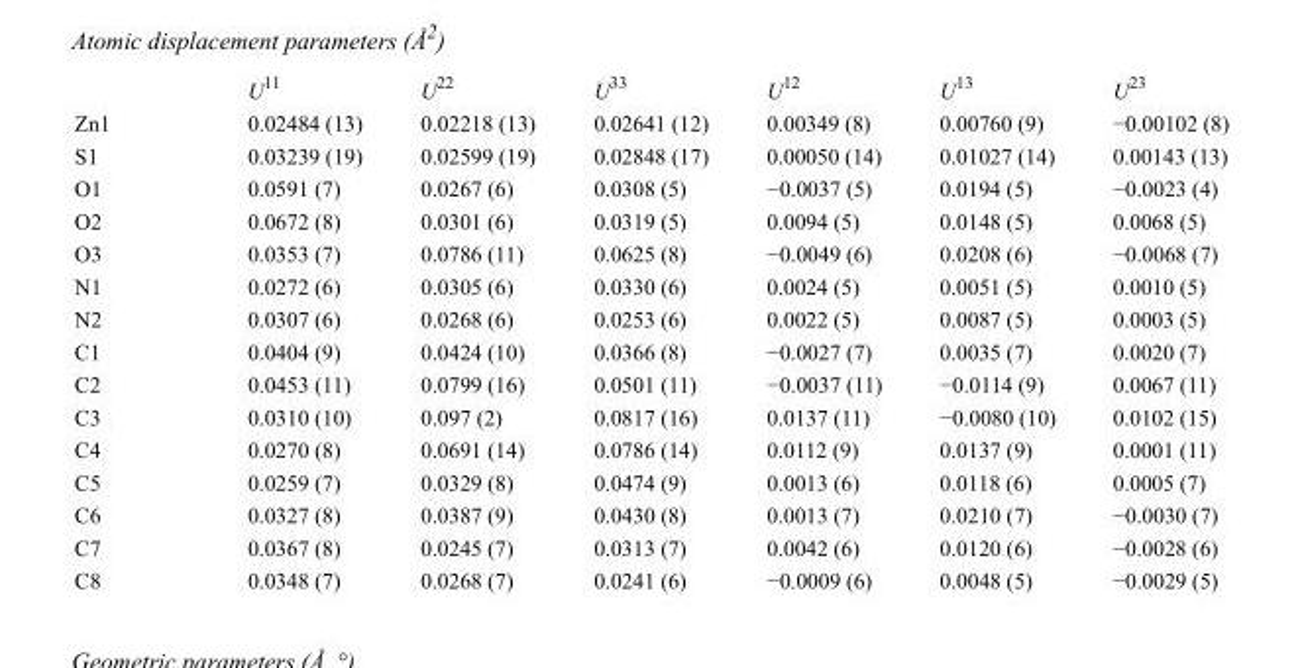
<table><thead><tr><td></td><td>U<sup>11</sup></td><td>U<sup>22</sup></td><td>U<sup>33</sup></td><td>U<sup>12</sup></td><td>U<sup>13</sup></td><td>U<sup>23</sup></td></tr></thead><tbody><tr><td>Zn1</td><td>0.02484 (13)</td><td>0.02218 (13)</td><td>0.02641 (12)</td><td>0.00349 (8)</td><td>0.00760 (9)</td><td>−0.00102 (8)</td></tr><tr><td>S1</td><td>0.03239 (19)</td><td>0.02599 (19)</td><td>0.02848 (17)</td><td>0.00050 (14)</td><td>0.01027 (14)</td><td>0.00143 (13)</td></tr><tr><td>O1</td><td>0.0591 (7)</td><td>0.0267 (6)</td><td>0.0308 (5)</td><td>−0.0037 (5)</td><td>0.0194 (5)</td><td>−0.0023 (4)</td></tr><tr><td>O2</td><td>0.0672 (8)</td><td>0.0301 (6)</td><td>0.0319 (5)</td><td>0.0094 (5)</td><td>0.0148 (5)</td><td>0.0068 (5)</td></tr><tr><td>O3</td><td>0.0353 (7)</td><td>0.0786 (11)</td><td>0.0625 (8)</td><td>−0.0049 (6)</td><td>0.0208 (6)</td><td>−0.0068 (7)</td></tr><tr><td>N1</td><td>0.0272 (6)</td><td>0.0305 (6)</td><td>0.0330 (6)</td><td>0.0024 (5)</td><td>0.0051 (5)</td><td>0.0010 (5)</td></tr><tr><td>N2</td><td>0.0307 (6)</td><td>0.0268 (6)</td><td>0.0253 (6)</td><td>0.0022 (5)</td><td>0.0087 (5)</td><td>0.0003 (5)</td></tr><tr><td>C1</td><td>0.0404 (9)</td><td>0.0424 (10)</td><td>0.0366 (8)</td><td>−0.0027 (7)</td><td>0.0035 (7)</td><td>0.0020 (7)</td></tr><tr><td>C2</td><td>0.0453 (11)</td><td>0.0799 (16)</td><td>0.0501 (11)</td><td>−0.0037 (11)</td><td>−0.0114 (9)</td><td>0.0067 (11)</td></tr><tr><td>C3</td><td>0.0310 (10)</td><td>0.097 (2)</td><td>0.0817 (16)</td><td>0.0137 (11)</td><td>−0.0080 (10)</td><td>0.0102 (15)</td></tr><tr><td>C4</td><td>0.0270 (8)</td><td>0.0691 (14)</td><td>0.0786 (14)</td><td>0.0112 (9)</td><td>0.0137 (9)</td><td>0.0001 (11)</td></tr><tr><td>C5</td><td>0.0259 (7)</td><td>0.0329 (8)</td><td>0.0474 (9)</td><td>0.0013 (6)</td><td>0.0118 (6)</td><td>0.0005 (7)</td></tr><tr><td>C6</td><td>0.0327 (8)</td><td>0.0387 (9)</td><td>0.0430 (8)</td><td>0.0013 (7)</td><td>0.0210 (7)</td><td>−0.0030 (7)</td></tr><tr><td>C7</td><td>0.0367 (8)</td><td>0.0245 (7)</td><td>0.0313 (7)</td><td>0.0042 (6)</td><td>0.0120 (6)</td><td>−0.0028 (6)</td></tr><tr><td>C8</td><td>0.0348 (7)</td><td>0.0268 (7)</td><td>0.0241 (6)</td><td>−0.0009 (6)</td><td>0.0048 (5)</td><td>−0.0029 (5)</td></tr></tbody></table>